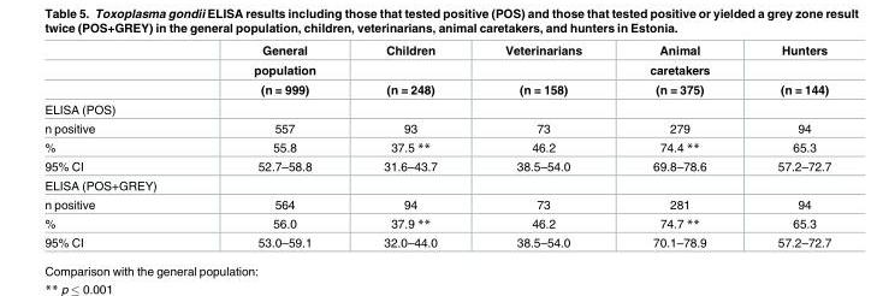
<table><thead><tr><td rowspan="3"></td><td rowspan="3">General population (n = 999)</td><td rowspan="3">Children (n = 248)</td><td rowspan="3">Veterinarians (n = 158)</td><td rowspan="3">Animal caretakers (n = 375)</td><td rowspan="3">Hunters (n = 144)</td></tr><tr></tr><tr></tr></thead><tbody><tr><td colspan="6">ELISA (POS)</td></tr><tr><td>n positive</td><td>557</td><td>93</td><td>73</td><td>279</td><td>94</td></tr><tr><td>%</td><td>55.8</td><td>37.5 **</td><td>46.2</td><td>74.4 **</td><td>65.3</td></tr><tr><td>95% CI</td><td>52.7–58.8</td><td>31.6–43.7</td><td>38.5–54.0</td><td>69.8–78.6</td><td>57.2–72.7</td></tr><tr><td colspan="6">ELISA (POS+GREY)</td></tr><tr><td>n positive</td><td>564</td><td>94</td><td>73</td><td>281</td><td>94</td></tr><tr><td>%</td><td>56.0</td><td>37.9 **</td><td>46.2</td><td>74.7 **</td><td>65.3</td></tr><tr><td>95% CI</td><td>53.0–59.1</td><td>32.0–44.0</td><td>38.5–54.0</td><td>70.1–78.9</td><td>57.2–72.7</td></tr></tbody></table>